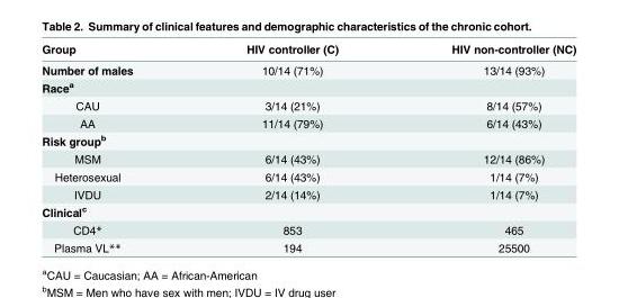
<table><thead><tr><td>Group</td><td>HIV controller (C)</td><td>HIV non-controller (NC)</td></tr></thead><tbody><tr><td>Number of males</td><td>10/14 (71%)</td><td>13/14 (93%)</td></tr><tr><td colspan="3">Race<sup>a</sup></td></tr><tr><td>CAU</td><td>3/14 (21%)</td><td>8/14 (57%)</td></tr><tr><td>AA</td><td>11/14 (79%)</td><td>6/14 (43%)</td></tr><tr><td colspan="3">Risk group<sup>b</sup></td></tr><tr><td>MSM</td><td>6/14 (43%)</td><td>12/14 (86%)</td></tr><tr><td>Heterosexual</td><td>6/14 (43%)</td><td>1/14 (7%)</td></tr><tr><td>IVDU</td><td>2/14 (14%)</td><td>1/14 (7%)</td></tr><tr><td colspan="3">Clinical<sup>c</sup></td></tr><tr><td>CD4*</td><td>853</td><td>465</td></tr><tr><td>Plasma VL**</td><td>194</td><td>25500</td></tr></tbody></table>